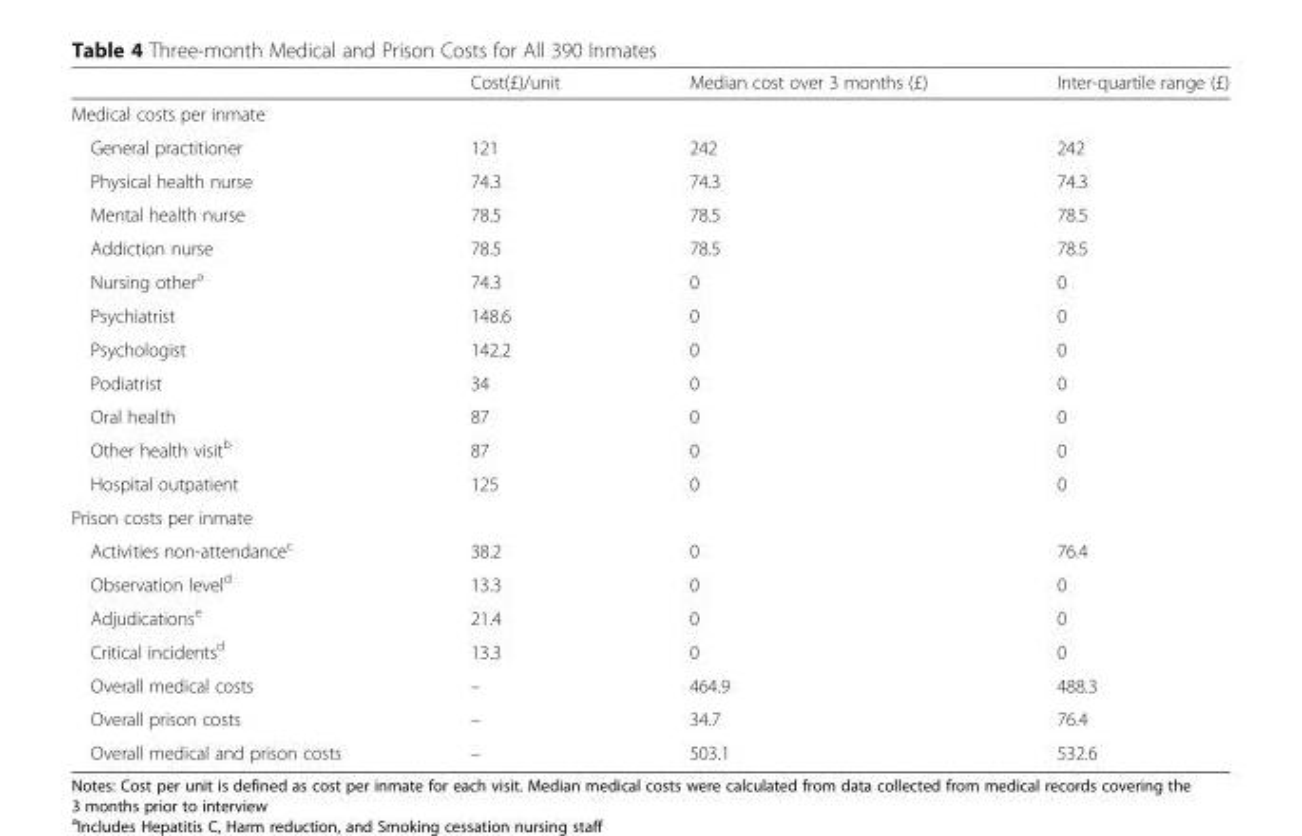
<table><thead><tr><td></td><td>Cost(£)/unit</td><td>Median cost over 3 months (£)</td><td>Inter-quartile range (£)</td></tr></thead><tbody><tr><td colspan="4">Medical costs per inmate</td></tr><tr><td>General practitioner</td><td>121</td><td>242</td><td>242</td></tr><tr><td>Physical health nurse</td><td>74.3</td><td>74.3</td><td>74.3</td></tr><tr><td>Mental health nurse</td><td>78.5</td><td>78.5</td><td>78.5</td></tr><tr><td>Addiction nurse</td><td>78.5</td><td>78.5</td><td>78.5</td></tr><tr><td>Nursing other<sup>a</sup></td><td>74.3</td><td>0</td><td>0</td></tr><tr><td>Psychiatrist</td><td>148.6</td><td>0</td><td>0</td></tr><tr><td>Psychologist</td><td>142.2</td><td>0</td><td>0</td></tr><tr><td>Podiatrist</td><td>34</td><td>0</td><td>0</td></tr><tr><td>Oral health</td><td>87</td><td>0</td><td>0</td></tr><tr><td>Other health visit<sup>b</sup></td><td>87</td><td>0</td><td>0</td></tr><tr><td>Hospital outpatient</td><td>125</td><td>0</td><td>0</td></tr><tr><td colspan="4">Prison costs per inmate</td></tr><tr><td>Activities non-attendance<sup>c</sup></td><td>38.2</td><td>0</td><td>76.4</td></tr><tr><td>Observation level<sup>d</sup></td><td>13.3</td><td>0</td><td>0</td></tr><tr><td>Adjudications<sup>e</sup></td><td>21.4</td><td>0</td><td>0</td></tr><tr><td>Critical incidents<sup>d</sup></td><td>13.3</td><td>0</td><td>0</td></tr><tr><td>Overall medical costs</td><td>–</td><td>464.9</td><td>488.3</td></tr><tr><td>Overall prison costs</td><td>–</td><td>34.7</td><td>76.4</td></tr><tr><td>Overall medical and prison costs</td><td>–</td><td>503.1</td><td>532.6</td></tr></tbody></table>